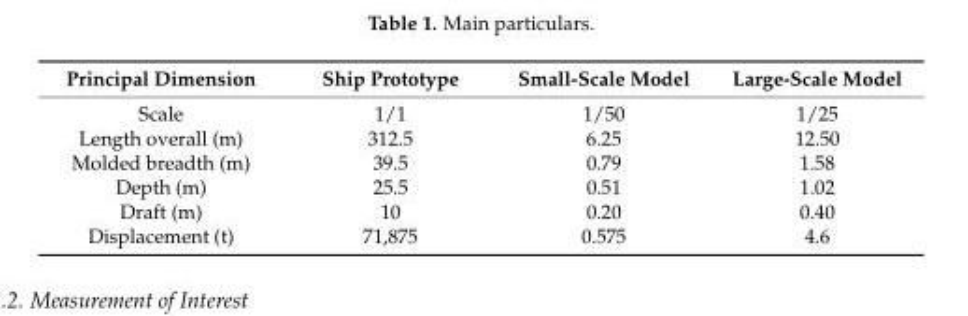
<table><thead><tr><td>Principal Dimension</td><td>Ship Prototype</td><td>Small-Scale Model</td><td>Large-Scale Model</td></tr></thead><tbody><tr><td>Scale</td><td>1/1</td><td>1/50</td><td>1/25</td></tr><tr><td>Length overall (m)</td><td>312.5</td><td>6.25</td><td>12.50</td></tr><tr><td>Molded breadth (m)</td><td>39.5</td><td>0.79</td><td>1.58</td></tr><tr><td>Depth (m)</td><td>25.5</td><td>0.51</td><td>1.02</td></tr><tr><td>Draft (m)</td><td>10</td><td>0.20</td><td>0.40</td></tr><tr><td>Displacement (t)</td><td>71,875</td><td>0.575</td><td>4.6</td></tr></tbody></table>